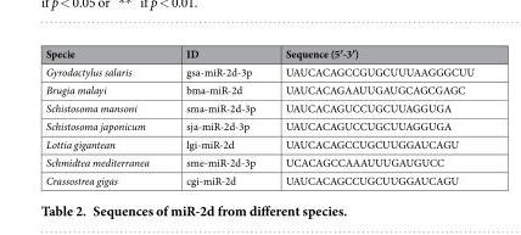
<table><thead><tr><td>Specie</td><td>ID</td><td>Sequence (5′-3′)</td></tr></thead><tbody><tr><td>Gyrodactylus salaris</td><td>gsa-miR-2d-3p</td><td>UAUCACAGCCGUGCUUUAAGGGCUU</td></tr><tr><td>Brugia malayi</td><td>bma-miR-2d</td><td>UAUCACAGAAUUGAUGCAGCGAGC</td></tr><tr><td>Schistosoma mansoni</td><td>sma-miR-2d-3p</td><td>UAUCACAGUCCUGCUUAGGUGA</td></tr><tr><td>Schistosoma japonicum</td><td>sja-miR-2d-3p</td><td>UAUCACAGUCCUGCUUAGGUGA</td></tr><tr><td>Lottia gigantean</td><td>lgi-miR-2d</td><td>UAUCACAGCCUGCUUGGAUCAGU</td></tr><tr><td>Schmidtea mediterranea</td><td>sme-miR-2d-3p</td><td>UCACAGCCAAAUUUGAUGUCC</td></tr><tr><td>Crassostrea gigas</td><td>cgi-miR-2d</td><td>UAUCACAGCCUGCUUGGAUCAGU</td></tr></tbody></table>